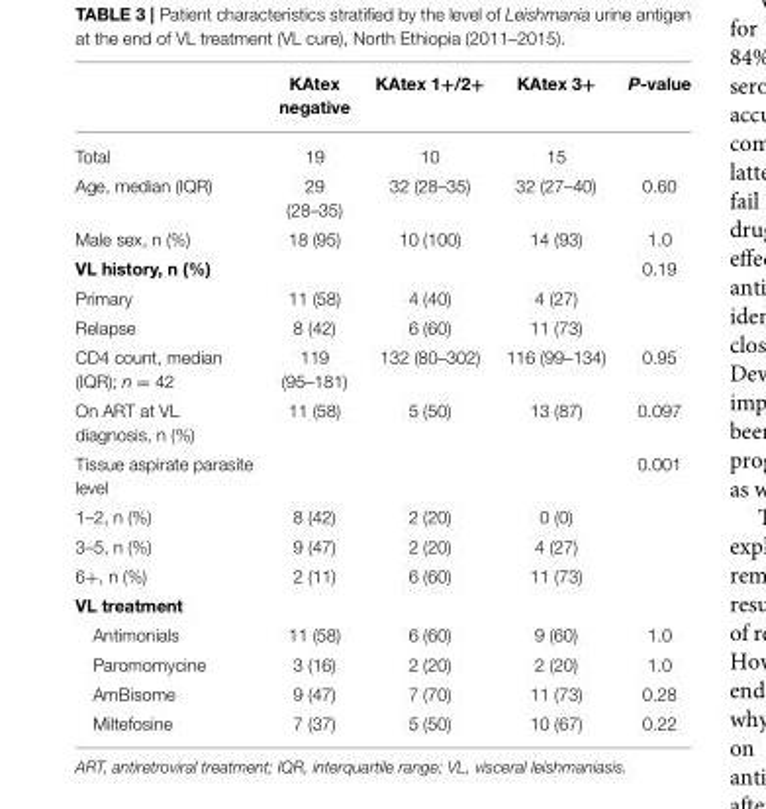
<table><thead><tr><td></td><td>KAtex negative</td><td>KAtex 1+/2+</td><td>KAtex 3+</td><td>P-value</td></tr></thead><tbody><tr><td>Total</td><td>19</td><td>10</td><td>15</td><td></td></tr><tr><td>Age, median (IQR)</td><td>29 (28–35)</td><td>32 (28–35)</td><td>32 (27–40)</td><td>0.60</td></tr><tr><td>Male sex, n (%)</td><td>18 (95)</td><td>10 (100)</td><td>14 (93)</td><td>1.0</td></tr><tr><td>VL history, n (%)</td><td></td><td></td><td></td><td>0.19</td></tr><tr><td>Primary</td><td>11 (58)</td><td>4 (40)</td><td>4 (27)</td><td></td></tr><tr><td>Relapse</td><td>8 (42)</td><td>6 (60)</td><td>11 (73)</td><td></td></tr><tr><td>CD4 count, median (IQR); n = 42</td><td>119 (95–181)</td><td>132 (80–302)</td><td>116 (99–134)</td><td>0.95</td></tr><tr><td>On ART at VL diagnosis, n (%)</td><td>11 (58)</td><td>5 (50)</td><td>13 (87)</td><td>0.097</td></tr><tr><td>Tissue aspirate parasite level</td><td></td><td></td><td></td><td>0.001</td></tr><tr><td>1–2, n (%)</td><td>8 (42)</td><td>2 (20)</td><td>0 (0)</td><td></td></tr><tr><td>3–5, n (%)</td><td>9 (47)</td><td>2 (20)</td><td>4 (27)</td><td></td></tr><tr><td>6+, n (%)</td><td>2 (11)</td><td>6 (60)</td><td>11 (73)</td><td></td></tr><tr><td colspan="5">VL treatment</td></tr><tr><td>Antimonials</td><td>11 (58)</td><td>6 (60)</td><td>9 (60)</td><td>1.0</td></tr><tr><td>Paromomycine</td><td>3 (16)</td><td>2 (20)</td><td>2 (20)</td><td>1.0</td></tr><tr><td>AmBisome</td><td>9 (47)</td><td>7 (70)</td><td>11 (73)</td><td>0.28</td></tr><tr><td>Miltefosine</td><td>7 (37)</td><td>5 (50)</td><td>10 (67)</td><td>0.22</td></tr></tbody></table>